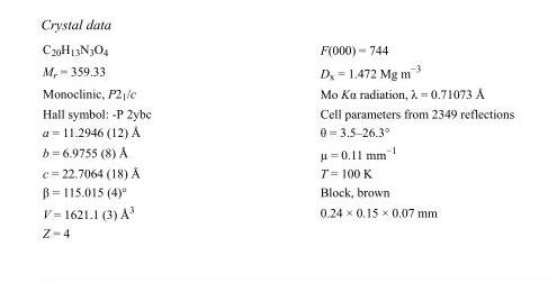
<table><tbody><tr><td>C<sub>20</sub>H<sub>13</sub>N<sub>3</sub>O<sub>4</sub></td><td>F(000) = 744</td></tr><tr><td>M<sub>r</sub> = 359.33</td><td>D<sub>x</sub> = 1.472 Mg m<sup>−3</sup></td></tr><tr><td>Monoclinic, P2<sub>1</sub>/c</td><td>Mo Kα radiation, λ = 0.71073 Å</td></tr><tr><td>Hall symbol: -P 2ybc</td><td>Cell parameters from 2349 reflections</td></tr><tr><td>a = 11.2946 (12) Å</td><td>θ = 3.5–26.3°</td></tr><tr><td>b = 6.9755 (8) Å</td><td>µ = 0.11 mm<sup>−1</sup></td></tr><tr><td>c = 22.7064 (18) Å</td><td>T = 100 K</td></tr><tr><td>β = 115.015 (4)°</td><td>Block, brown</td></tr><tr><td>V = 1621.1 (3) Å<sup>3</sup></td><td>0.24 × 0.15 × 0.07 mm</td></tr><tr><td>Z = 4</td><td></td></tr></tbody></table>